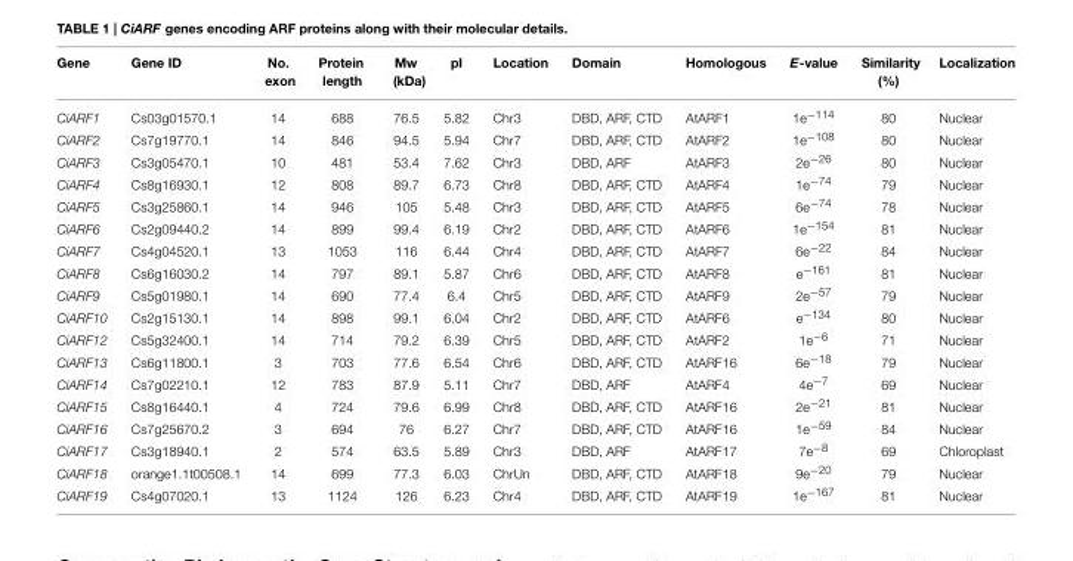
<table><thead><tr><td>Gene</td><td>Gene ID</td><td>No. exon</td><td>Protein length</td><td>Mw (kDa)</td><td>pI</td><td>Location</td><td>Domain</td><td>Homologous</td><td>E-value</td><td>Similarity (%)</td><td>Localization</td></tr></thead><tbody><tr><td>CiARF1</td><td>Cs03g01570.1</td><td>14</td><td>688</td><td>76.5</td><td>5.82</td><td>Chr3</td><td>DBD, ARF, CTD</td><td>AtARF1</td><td>1e<sup>−114</sup></td><td>80</td><td>Nuclear</td></tr><tr><td>CiARF2</td><td>Cs7g19770.1</td><td>14</td><td>846</td><td>94.5</td><td>5.94</td><td>Chr7</td><td>DBD, ARF, CTD</td><td>AtARF2</td><td>1e<sup>−108</sup></td><td>80</td><td>Nuclear</td></tr><tr><td>CiARF3</td><td>Cs3g05470.1</td><td>10</td><td>481</td><td>53.4</td><td>7.62</td><td>Chr3</td><td>DBD, ARF</td><td>AtARF3</td><td>2e<sup>−26</sup></td><td>80</td><td>Nuclear</td></tr><tr><td>CiARF4</td><td>Cs8g16930.1</td><td>12</td><td>808</td><td>89.7</td><td>6.73</td><td>Chr8</td><td>DBD, ARF, CTD</td><td>AtARF4</td><td>1e<sup>−74</sup></td><td>79</td><td>Nuclear</td></tr><tr><td>CiARF5</td><td>Cs3g25860.1</td><td>14</td><td>946</td><td>105</td><td>5.48</td><td>Chr3</td><td>DBD, ARF, CTD</td><td>AtARF5</td><td>6e<sup>−74</sup></td><td>78</td><td>Nuclear</td></tr><tr><td>CiARF6</td><td>Cs2g09440.2</td><td>14</td><td>899</td><td>99.4</td><td>6.19</td><td>Chr2</td><td>DBD, ARF, CTD</td><td>AtARF6</td><td>1e<sup>−154</sup></td><td>81</td><td>Nuclear</td></tr><tr><td>CiARF7</td><td>Cs4g04520.1</td><td>13</td><td>1053</td><td>116</td><td>6.44</td><td>Chr4</td><td>DBD, ARF, CTD</td><td>AtARF7</td><td>6e<sup>−22</sup></td><td>84</td><td>Nuclear</td></tr><tr><td>CiARF8</td><td>Cs6g16030.2</td><td>14</td><td>797</td><td>89.1</td><td>5.87</td><td>Chr6</td><td>DBD, ARF, CTD</td><td>AtARF8</td><td>e<sup>−161</sup></td><td>81</td><td>Nuclear</td></tr><tr><td>CiARF9</td><td>Cs5g01980.1</td><td>14</td><td>690</td><td>77.4</td><td>6.4</td><td>Chr5</td><td>DBD, ARF, CTD</td><td>AtARF9</td><td>2e<sup>−57</sup></td><td>79</td><td>Nuclear</td></tr><tr><td>CiARF10</td><td>Cs2g15130.1</td><td>14</td><td>898</td><td>99.1</td><td>6.04</td><td>Chr2</td><td>DBD, ARF, CTD</td><td>AtARF6</td><td>e<sup>−134</sup></td><td>80</td><td>Nuclear</td></tr><tr><td>CiARF12</td><td>Cs5g32400.1</td><td>14</td><td>714</td><td>79.2</td><td>6.39</td><td>Chr5</td><td>DBD, ARF, CTD</td><td>AtARF2</td><td>1e<sup>−6</sup></td><td>71</td><td>Nuclear</td></tr><tr><td>CiARF13</td><td>Cs6g11800.1</td><td>3</td><td>703</td><td>77.6</td><td>6.54</td><td>Chr6</td><td>DBD, ARF, CTD</td><td>AtARF16</td><td>6e<sup>−18</sup></td><td>79</td><td>Nuclear</td></tr><tr><td>CiARF14</td><td>Cs7g02210.1</td><td>12</td><td>783</td><td>87.9</td><td>5.11</td><td>Chr7</td><td>DBD, ARF</td><td>AtARF4</td><td>4e<sup>−7</sup></td><td>69</td><td>Nuclear</td></tr><tr><td>CiARF15</td><td>Cs8g16440.1</td><td>4</td><td>724</td><td>79.6</td><td>6.99</td><td>Chr8</td><td>DBD, ARF, CTD</td><td>AtARF16</td><td>2e<sup>−21</sup></td><td>81</td><td>Nuclear</td></tr><tr><td>CiARF16</td><td>Cs7g25670.2</td><td>3</td><td>694</td><td>76</td><td>6.27</td><td>Chr7</td><td>DBD, ARF, CTD</td><td>AtARF16</td><td>1e<sup>−59</sup></td><td>84</td><td>Nuclear</td></tr><tr><td>CiARF17</td><td>Cs3g18940.1</td><td>2</td><td>574</td><td>63.5</td><td>5.89</td><td>Chr3</td><td>DBD, ARF</td><td>AtARF17</td><td>7e<sup>−8</sup></td><td>69</td><td>Chloroplast</td></tr><tr><td>CiARF18</td><td>orange1.1t00508.1</td><td>14</td><td>699</td><td>77.3</td><td>6.03</td><td>ChrUn</td><td>DBD, ARF, CTD</td><td>AtARF18</td><td>9e<sup>−20</sup></td><td>79</td><td>Nuclear</td></tr><tr><td>CiARF19</td><td>Cs4g07020.1</td><td>13</td><td>1124</td><td>126</td><td>6.23</td><td>Chr4</td><td>DBD, ARF, CTD</td><td>AtARF19</td><td>1e<sup>−167</sup></td><td>81</td><td>Nuclear</td></tr></tbody></table>